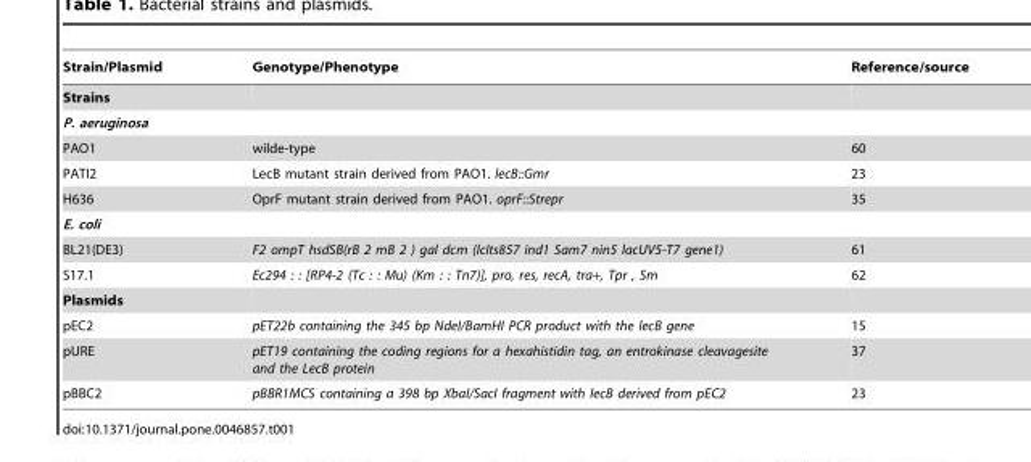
<table><thead><tr><td>Strain/Plasmid</td><td>Genotype/Phenotype</td><td>Reference/source</td></tr></thead><tbody><tr><td colspan="3">Strains</td></tr><tr><td colspan="3">P. aeruginosa</td></tr><tr><td>PAO1</td><td>wilde-type</td><td>60</td></tr><tr><td>PATI2</td><td>LecB mutant strain derived from PAO1. lecB::Gmr</td><td>23</td></tr><tr><td>H636</td><td>OprF mutant strain derived from PAO1. oprF::Strepr</td><td>35</td></tr><tr><td colspan="3">E. coli</td></tr><tr><td>BL21(DE3)</td><td>F2 ompT hsdSB(rB 2 mB 2 ) gal dcm (lcIts857 ind1 Sam7 nin5 lacUV5-T7 gene1)</td><td>61</td></tr><tr><td>S17.1</td><td>Ec294 : : [RP4-2 (Tc : : Mu) (Km : : Tn7)], pro, res, recA, tra+, Tpr , Sm</td><td>62</td></tr><tr><td colspan="3">Plasmids</td></tr><tr><td>pEC2</td><td>pET22b containing the 345 bp NdeI/BamHI PCR product with the lecB gene</td><td>15</td></tr><tr><td>pURE</td><td>pET19 containing the coding regions for a hexahistidin tag, an entrokinase cleavagesite and the LecB protein</td><td>37</td></tr><tr><td>pBBC2</td><td>pBBR1MCS containing a 398 bp XbaI/SacI fragment with lecB derived from pEC2</td><td>23</td></tr></tbody></table>